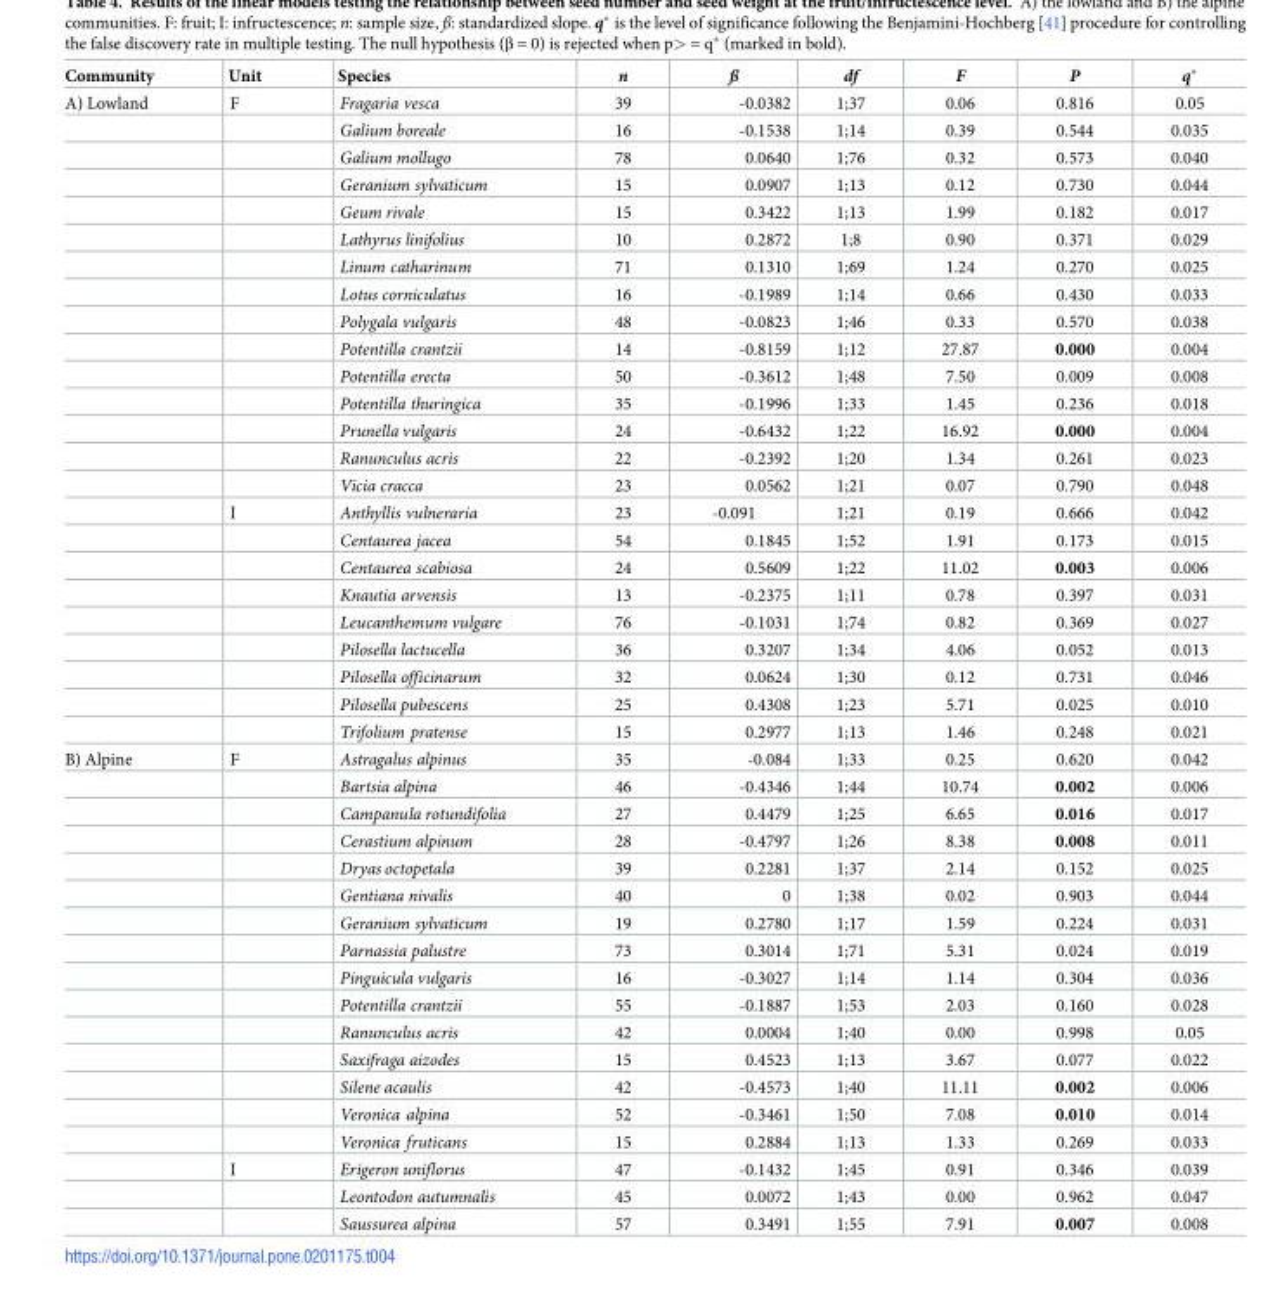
<table><thead><tr><td>Community</td><td>Unit</td><td>Species</td><td>n</td><td>ß</td><td>df</td><td>F</td><td>P</td><td>q*</td></tr></thead><tbody><tr><td rowspan="24">A) Lowland</td><td>F</td><td>Fragaria vesca</td><td>39</td><td>-0.0382</td><td>1;37</td><td>0.06</td><td>0.816</td><td>0.05</td></tr><tr><td></td><td>Galium boreale</td><td>16</td><td>-0.1538</td><td>1;14</td><td>0.39</td><td>0.544</td><td>0.035</td></tr><tr><td></td><td>Galium mollugo</td><td>78</td><td>0.0640</td><td>1;76</td><td>0.32</td><td>0.573</td><td>0.040</td></tr><tr><td></td><td>Geranium sylvaticum</td><td>15</td><td>0.0907</td><td>1;13</td><td>0.12</td><td>0.730</td><td>0.044</td></tr><tr><td></td><td>Geum rivale</td><td>15</td><td>0.3422</td><td>1;13</td><td>1.99</td><td>0.182</td><td>0.017</td></tr><tr><td></td><td>Lathyrus linifolius</td><td>10</td><td>0.2872</td><td>1;8</td><td>0.90</td><td>0.371</td><td>0.029</td></tr><tr><td></td><td>Linum catharinum</td><td>71</td><td>0.1310</td><td>1;69</td><td>1.24</td><td>0.270</td><td>0.025</td></tr><tr><td></td><td>Lotus corniculatus</td><td>16</td><td>-0.1989</td><td>1;14</td><td>0.66</td><td>0.430</td><td>0.033</td></tr><tr><td></td><td>Polygala vulgaris</td><td>48</td><td>-0.0823</td><td>1;46</td><td>0.33</td><td>0.570</td><td>0.038</td></tr><tr><td></td><td>Potentilla crantzii</td><td>14</td><td>-0.8159</td><td>1;12</td><td>27.87</td><td>0.000</td><td>0.004</td></tr><tr><td></td><td>Potentilla erecta</td><td>50</td><td>-0.3612</td><td>1;48</td><td>7.50</td><td>0.009</td><td>0.008</td></tr><tr><td></td><td>Potentilla thuringica</td><td>35</td><td>-0.1996</td><td>1;33</td><td>1.45</td><td>0.236</td><td>0.018</td></tr><tr><td></td><td>Prunella vulgaris</td><td>24</td><td>-0.6432</td><td>1;22</td><td>16.92</td><td>0.000</td><td>0.004</td></tr><tr><td></td><td>Ranunculus acris</td><td>22</td><td>-0.2392</td><td>1;20</td><td>1.34</td><td>0.261</td><td>0.023</td></tr><tr><td></td><td>Vicia cracca</td><td>23</td><td>0.0562</td><td>1;21</td><td>0.07</td><td>0.790</td><td>0.048</td></tr><tr><td>I</td><td>Anthyllis vulneraria</td><td>23</td><td>-0.091</td><td>1;21</td><td>0.19</td><td>0.666</td><td>0.042</td></tr><tr><td></td><td>Centaurea jacea</td><td>54</td><td>0.1845</td><td>1;52</td><td>1.91</td><td>0.173</td><td>0.015</td></tr><tr><td></td><td>Centaurea scabiosa</td><td>24</td><td>0.5609</td><td>1;22</td><td>11.02</td><td>0.003</td><td>0.006</td></tr><tr><td></td><td>Knautia arvensis</td><td>13</td><td>-0.2375</td><td>1;11</td><td>0.78</td><td>0.397</td><td>0.031</td></tr><tr><td></td><td>Leucanthemum vulgare</td><td>76</td><td>-0.1031</td><td>1;74</td><td>0.82</td><td>0.369</td><td>0.027</td></tr><tr><td></td><td>Pilosella lactucella</td><td>36</td><td>0.3207</td><td>1;34</td><td>4.06</td><td>0.052</td><td>0.013</td></tr><tr><td></td><td>Pilosella officinarum</td><td>32</td><td>0.0624</td><td>1;30</td><td>0.12</td><td>0.731</td><td>0.046</td></tr><tr><td></td><td>Pilosella pubescens</td><td>25</td><td>0.4308</td><td>1;23</td><td>5.71</td><td>0.025</td><td>0.010</td></tr><tr><td></td><td>Trifolium pratense</td><td>15</td><td>0.2977</td><td>1;13</td><td>1.46</td><td>0.248</td><td>0.021</td></tr><tr><td rowspan="18">B) Alpine</td><td>F</td><td>Astragalus alpinus</td><td>35</td><td>-0.084</td><td>1;33</td><td>0.25</td><td>0.620</td><td>0.042</td></tr><tr><td></td><td>Bartsia alpina</td><td>46</td><td>-0.4346</td><td>1;44</td><td>10.74</td><td>0.002</td><td>0.006</td></tr><tr><td></td><td>Campanula rotundifolia</td><td>27</td><td>0.4479</td><td>1;25</td><td>6.65</td><td>0.016</td><td>0.017</td></tr><tr><td></td><td>Cerastium alpinum</td><td>28</td><td>-0.4797</td><td>1;26</td><td>8.38</td><td>0.008</td><td>0.011</td></tr><tr><td></td><td>Dryas octopetala</td><td>39</td><td>0.2281</td><td>1;37</td><td>2.14</td><td>0.152</td><td>0.025</td></tr><tr><td></td><td>Gentiana nivalis</td><td>40</td><td>0</td><td>1;38</td><td>0.02</td><td>0.903</td><td>0.044</td></tr><tr><td></td><td>Geranium sylvaticum</td><td>19</td><td>0.2780</td><td>1;17</td><td>1.59</td><td>0.224</td><td>0.031</td></tr><tr><td></td><td>Parnassia palustre</td><td>73</td><td>0.3014</td><td>1;71</td><td>5.31</td><td>0.024</td><td>0.019</td></tr><tr><td></td><td>Pinguicula vulgaris</td><td>16</td><td>-0.3027</td><td>1;14</td><td>1.14</td><td>0.304</td><td>0.036</td></tr><tr><td></td><td>Potentilla crantzii</td><td>55</td><td>-0.1887</td><td>1;53</td><td>2.03</td><td>0.160</td><td>0.028</td></tr><tr><td></td><td>Ranunculus acris</td><td>42</td><td>0.0004</td><td>1;40</td><td>0.00</td><td>0.998</td><td>0.05</td></tr><tr><td></td><td>Saxifraga aizodes</td><td>15</td><td>0.4523</td><td>1;13</td><td>3.67</td><td>0.077</td><td>0.022</td></tr><tr><td></td><td>Silene acaulis</td><td>42</td><td>-0.4573</td><td>1;40</td><td>11.11</td><td>0.002</td><td>0.006</td></tr><tr><td></td><td>Veronica alpina</td><td>52</td><td>-0.3461</td><td>1;50</td><td>7.08</td><td>0.010</td><td>0.014</td></tr><tr><td></td><td>Veronica fruticans</td><td>15</td><td>0.2884</td><td>1;13</td><td>1.33</td><td>0.269</td><td>0.033</td></tr><tr><td>I</td><td>Erigeron uniflorus</td><td>47</td><td>-0.1432</td><td>1;45</td><td>0.91</td><td>0.346</td><td>0.039</td></tr><tr><td></td><td>Leontodon autumnalis</td><td>45</td><td>0.0072</td><td>1;43</td><td>0.00</td><td>0.962</td><td>0.047</td></tr><tr><td></td><td>Saussurea alpina</td><td>57</td><td>0.3491</td><td>1;55</td><td>7.91</td><td>0.007</td><td>0.008</td></tr></tbody></table>